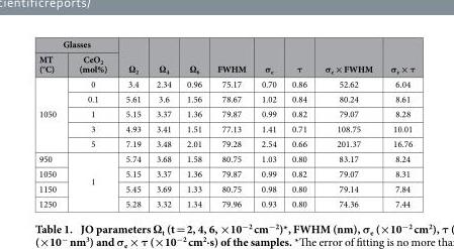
<table><thead><tr><td colspan="2">Glasses</td><td rowspan="2">Ω<sub>2</sub></td><td rowspan="2">Ω<sub>4</sub></td><td rowspan="2">Ω<sub>6</sub></td><td rowspan="2">FWHM</td><td rowspan="2">σ<sub>e</sub></td><td rowspan="2">τ</td><td rowspan="2">σ<sub>e</sub> × FWHM</td><td rowspan="2">σ<sub>e</sub> × τ</td></tr><tr><td>MT (°C)</td><td>CeO<sub>2</sub> (mol%)</td></tr></thead><tbody><tr><td rowspan="5">1050</td><td>0</td><td>3.4</td><td>2.34</td><td>0.96</td><td>75.17</td><td>0.70</td><td>0.86</td><td>52.62</td><td>6.04</td></tr><tr><td>0.1</td><td>5.61</td><td>3.6</td><td>1.56</td><td>78.67</td><td>1.02</td><td>0.84</td><td>80.24</td><td>8.61</td></tr><tr><td>1</td><td>5.15</td><td>3.37</td><td>1.36</td><td>79.87</td><td>0.99</td><td>0.82</td><td>79.07</td><td>8.28</td></tr><tr><td>3</td><td>4.93</td><td>3.41</td><td>1.51</td><td>77.13</td><td>1.41</td><td>0.71</td><td>108.75</td><td>10.01</td></tr><tr><td>5</td><td>7.19</td><td>3.48</td><td>2.01</td><td>79.28</td><td>2.54</td><td>0.66</td><td>201.37</td><td>16.76</td></tr><tr><td>950</td><td rowspan="4">1</td><td>5.74</td><td>3.68</td><td>1.58</td><td>80.75</td><td>1.03</td><td>0.80</td><td>83.17</td><td>8.24</td></tr><tr><td>1050</td><td>5.15</td><td>3.37</td><td>1.36</td><td>79.87</td><td>0.99</td><td>0.82</td><td>79.07</td><td>8.31</td></tr><tr><td>1150</td><td>5.45</td><td>3.69</td><td>1.33</td><td>80.75</td><td>0.98</td><td>0.80</td><td>79.14</td><td>7.84</td></tr><tr><td>1250</td><td>5.28</td><td>3.32</td><td>1.34</td><td>79.96</td><td>0.93</td><td>0.80</td><td>74.36</td><td>7.44</td></tr></tbody></table>